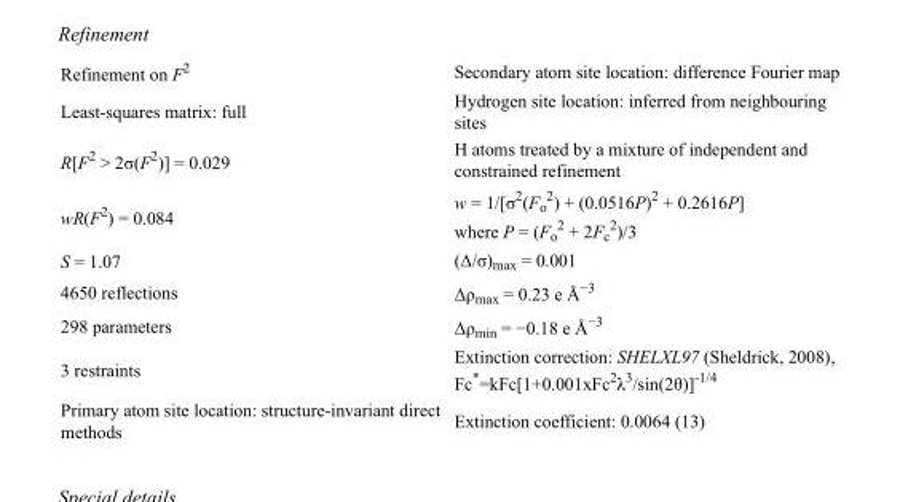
<table><tbody><tr><td>Refinement on F<sup>2</sup></td><td>Secondary atom site location: difference Fourier map</td></tr><tr><td>Least-squares matrix: full</td><td>Hydrogen site location: inferred from neighbouring sites</td></tr><tr><td>R[F<sup>2</sup> &gt; 2σ(F<sup>2</sup>)] = 0.029</td><td>H atoms treated by a mixture of independent and constrained refinement</td></tr><tr><td>wR(F<sup>2</sup>) = 0.084</td><td>w = 1/[σ<sup>2</sup>(F<sub>o</sub> <sup>2</sup>) + (0.0516P)<sup>2</sup> + 0.2616P] where P = (F<sub>o</sub> <sup>2</sup> + 2F<sub>c</sub> <sup>2</sup>)/3</td></tr><tr><td>S = 1.07</td><td>(Δ/σ)<sub>max</sub> = 0.001</td></tr><tr><td>4650 reflections</td><td>Δρ<sub>max</sub> = 0.23 e Å<sup>−3</sup></td></tr><tr><td>298 parameters</td><td>Δρ<sub>min</sub> = −0.18 e Å<sup>−3</sup></td></tr><tr><td>3 restraints</td><td>Extinction correction: SHELXL97 (Sheldrick, 2008), Fc*=kFc[1+0.001xFc<sup>2</sup>λ<sup>3</sup>/sin(2θ)]<sup>-1/4</sup></td></tr><tr><td>Primary atom site location: structure-invariant direct methods</td><td>Extinction coefficient: 0.0064 (13)</td></tr></tbody></table>